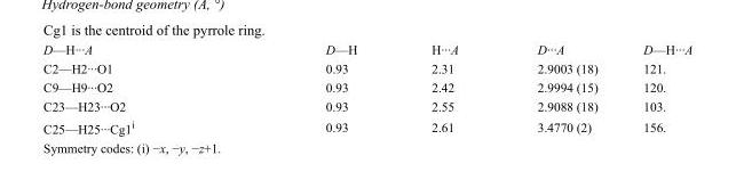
<table><tbody><tr><td>D—H···A</td><td>D—H</td><td>H···A</td><td>D···A</td><td>D—H···A</td></tr><tr><td>C2—H2···O1</td><td>0.93</td><td>2.31</td><td>2.9003 (18)</td><td>121.</td></tr><tr><td>C9—H9···O2</td><td>0.93</td><td>2.42</td><td>2.9994 (15)</td><td>120.</td></tr><tr><td>C23—H23···O2</td><td>0.93</td><td>2.55</td><td>2.9088 (18)</td><td>103.</td></tr><tr><td>C25—H25···Cg1<sup>i</sup></td><td>0.93</td><td>2.61</td><td>3.4770 (2)</td><td>156.</td></tr></tbody></table>